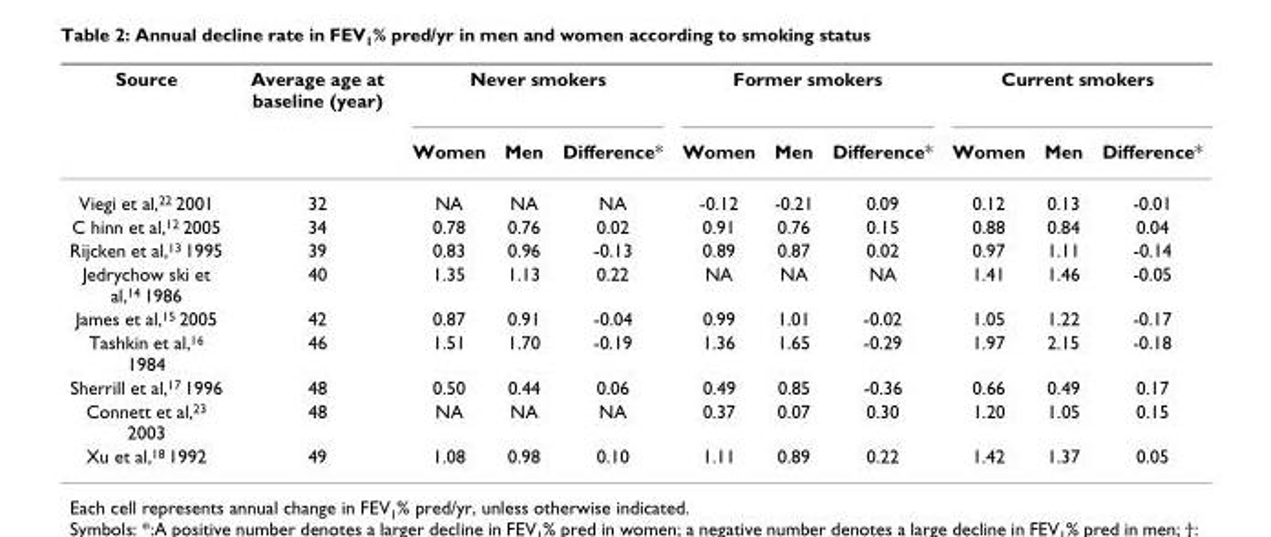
<table><thead><tr><td rowspan="2">Source</td><td rowspan="2">Average age at baseline (year)</td><td colspan="3">Never smokers</td><td colspan="3">Former smokers</td><td colspan="3">Current smokers</td></tr><tr><td>Women</td><td>Men</td><td>Difference*</td><td>Women</td><td>Men</td><td>Difference*</td><td>Women</td><td>Men</td><td>Difference*</td></tr></thead><tbody><tr><td>Viegi et al,<sup>22</sup> 2001</td><td>32</td><td>NA</td><td>NA</td><td>NA</td><td>-0.12</td><td>-0.21</td><td>0.09</td><td>0.12</td><td>0.13</td><td>-0.01</td></tr><tr><td>C hinn et al,<sup>12</sup> 2005</td><td>34</td><td>0.78</td><td>0.76</td><td>0.02</td><td>0.91</td><td>0.76</td><td>0.15</td><td>0.88</td><td>0.84</td><td>0.04</td></tr><tr><td>Rijcken et al,<sup>13</sup> 1995</td><td>39</td><td>0.83</td><td>0.96</td><td>-0.13</td><td>0.89</td><td>0.87</td><td>0.02</td><td>0.97</td><td>1.11</td><td>-0.14</td></tr><tr><td>Jedrychow ski et al,<sup>14</sup> 1986</td><td>40</td><td>1.35</td><td>1.13</td><td>0.22</td><td>NA</td><td>NA</td><td>NA</td><td>1.41</td><td>1.46</td><td>-0.05</td></tr><tr><td>James et al,<sup>15</sup> 2005</td><td>42</td><td>0.87</td><td>0.91</td><td>-0.04</td><td>0.99</td><td>1.01</td><td>-0.02</td><td>1.05</td><td>1.22</td><td>-0.17</td></tr><tr><td>Tashkin et al,<sup>16</sup> 1984</td><td>46</td><td>1.51</td><td>1.70</td><td>-0.19</td><td>1.36</td><td>1.65</td><td>-0.29</td><td>1.97</td><td>2.15</td><td>-0.18</td></tr><tr><td>Sherrill et al,<sup>17</sup> 1996</td><td>48</td><td>0.50</td><td>0.44</td><td>0.06</td><td>0.49</td><td>0.85</td><td>-0.36</td><td>0.66</td><td>0.49</td><td>0.17</td></tr><tr><td>Connett et al,<sup>23</sup> 2003</td><td>48</td><td>NA</td><td>NA</td><td>NA</td><td>0.37</td><td>0.07</td><td>0.30</td><td>1.20</td><td>1.05</td><td>0.15</td></tr><tr><td>Xu et al,<sup>18</sup> 1992</td><td>49</td><td>1.08</td><td>0.98</td><td>0.10</td><td>1.11</td><td>0.89</td><td>0.22</td><td>1.42</td><td>1.37</td><td>0.05</td></tr></tbody></table>